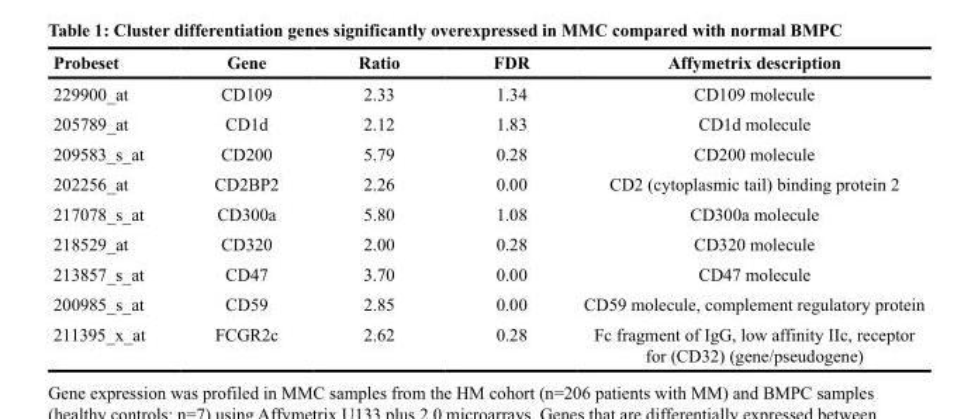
<table><thead><tr><td>Probeset</td><td>Gene</td><td>Ratio</td><td>FDR</td><td>Affymetrix description</td></tr></thead><tbody><tr><td>229900_at</td><td>CD109</td><td>2.33</td><td>1.34</td><td>CD109 molecule</td></tr><tr><td>205789_at</td><td>CD1d</td><td>2.12</td><td>1.83</td><td>CD1d molecule</td></tr><tr><td>209583_s_at</td><td>CD200</td><td>5.79</td><td>0.28</td><td>CD200 molecule</td></tr><tr><td>202256_at</td><td>CD2BP2</td><td>2.26</td><td>0.00</td><td>CD2 (cytoplasmic tail) binding protein 2</td></tr><tr><td>217078_s_at</td><td>CD300a</td><td>5.80</td><td>1.08</td><td>CD300a molecule</td></tr><tr><td>218529_at</td><td>CD320</td><td>2.00</td><td>0.28</td><td>CD320 molecule</td></tr><tr><td>213857_s_at</td><td>CD47</td><td>3.70</td><td>0.00</td><td>CD47 molecule</td></tr><tr><td>200985_s_at</td><td>CD59</td><td>2.85</td><td>0.00</td><td>CD59 molecule, complement regulatory protein</td></tr><tr><td>211395_x_at</td><td>FCGR2c</td><td>2.62</td><td>0.28</td><td>Fc fragment of IgG, low affinity IIc, receptor for (CD32) (gene/pseudogene)</td></tr></tbody></table>